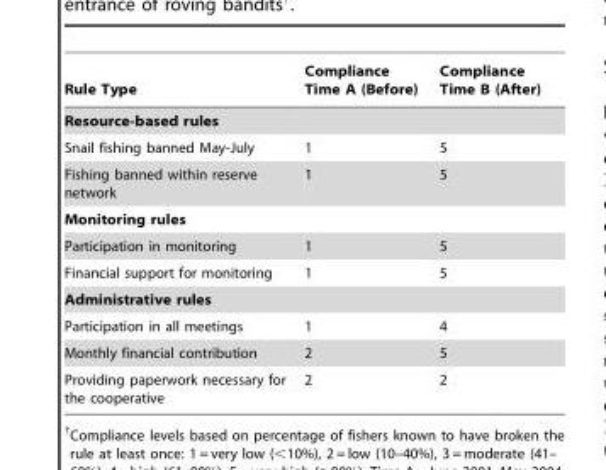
<table><thead><tr><td>Rule Type</td><td>Compliance Time A (Before)</td><td>Compliance Time B (After)</td></tr></thead><tbody><tr><td colspan="3">Resource-based rules</td></tr><tr><td>Snail fishing banned May-July</td><td>1</td><td>5</td></tr><tr><td>Fishing banned within reserve network</td><td>1</td><td>5</td></tr><tr><td colspan="3">Monitoring rules</td></tr><tr><td>Participation in monitoring</td><td>1</td><td>5</td></tr><tr><td>Financial support for monitoring</td><td>1</td><td>5</td></tr><tr><td colspan="3">Administrative rules</td></tr><tr><td>Participation in all meetings</td><td>1</td><td>4</td></tr><tr><td>Monthly financial contribution</td><td>2</td><td>5</td></tr><tr><td>Providing paperwork necessary for the cooperative</td><td>2</td><td>2</td></tr></tbody></table>